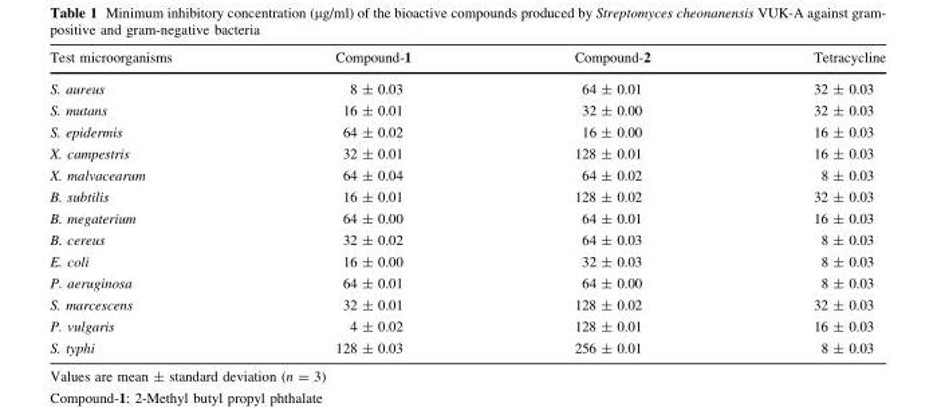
<table><thead><tr><td>Test microorganisms</td><td>Compound-1</td><td>Compound-2</td><td>Tetracycline</td></tr></thead><tbody><tr><td>S. aureus</td><td>8 ± 0.03</td><td>64 ± 0.01</td><td>32 ± 0.03</td></tr><tr><td>S. mutans</td><td>16 ± 0.01</td><td>32 ± 0.00</td><td>32 ± 0.03</td></tr><tr><td>S. epidermis</td><td>64 ± 0.02</td><td>16 ± 0.00</td><td>16 ± 0.03</td></tr><tr><td>X. campestris</td><td>32 ± 0.01</td><td>128 ± 0.01</td><td>16 ± 0.03</td></tr><tr><td>X. malvacearum</td><td>64 ± 0.04</td><td>64 ± 0.02</td><td>8 ± 0.03</td></tr><tr><td>B. subtilis</td><td>16 ± 0.01</td><td>128 ± 0.02</td><td>32 ± 0.03</td></tr><tr><td>B. megaterium</td><td>64 ± 0.00</td><td>64 ± 0.01</td><td>16 ± 0.03</td></tr><tr><td>B. cereus</td><td>32 ± 0.02</td><td>64 ± 0.03</td><td>8 ± 0.03</td></tr><tr><td>E. coli</td><td>16 ± 0.00</td><td>32 ± 0.03</td><td>8 ± 0.03</td></tr><tr><td>P. aeruginosa</td><td>64 ± 0.01</td><td>64 ± 0.00</td><td>8 ± 0.03</td></tr><tr><td>S. marcescens</td><td>32 ± 0.01</td><td>128 ± 0.02</td><td>32 ± 0.03</td></tr><tr><td>P. vulgaris</td><td>4 ± 0.02</td><td>128 ± 0.01</td><td>16 ± 0.03</td></tr><tr><td>S. typhi</td><td>128 ± 0.03</td><td>256 ± 0.01</td><td>8 ± 0.03</td></tr></tbody></table>